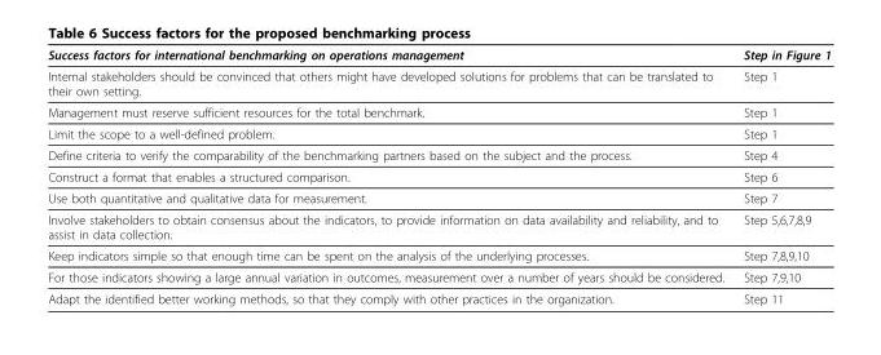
<table><thead><tr><td>Success factors for international benchmarking on operations management</td><td>Step in Figure 1</td></tr></thead><tbody><tr><td>Internal stakeholders should be convinced that others might have developed solutions for problems that can be translated to their own setting.</td><td>Step 1</td></tr><tr><td>Management must reserve sufficient resources for the total benchmark.</td><td>Step 1</td></tr><tr><td>Limit the scope to a well-defined problem.</td><td>Step 1</td></tr><tr><td>Define criteria to verify the comparability of the benchmarking partners based on the subject and the process.</td><td>Step 4</td></tr><tr><td>Construct a format that enables a structured comparison.</td><td>Step 6</td></tr><tr><td>Use both quantitative and qualitative data for measurement.</td><td>Step 7</td></tr><tr><td>Involve stakeholders to obtain consensus about the indicators, to provide information on data availability and reliability, and to assist in data collection.</td><td>Step 5,6,7,8,9</td></tr><tr><td>Keep indicators simple so that enough time can be spent on the analysis of the underlying processes.</td><td>Step 7,8,9,10</td></tr><tr><td>For those indicators showing a large annual variation in outcomes, measurement over a number of years should be considered.</td><td>Step 7,9,10</td></tr><tr><td>Adapt the identified better working methods, so that they comply with other practices in the organization.</td><td>Step 11</td></tr></tbody></table>